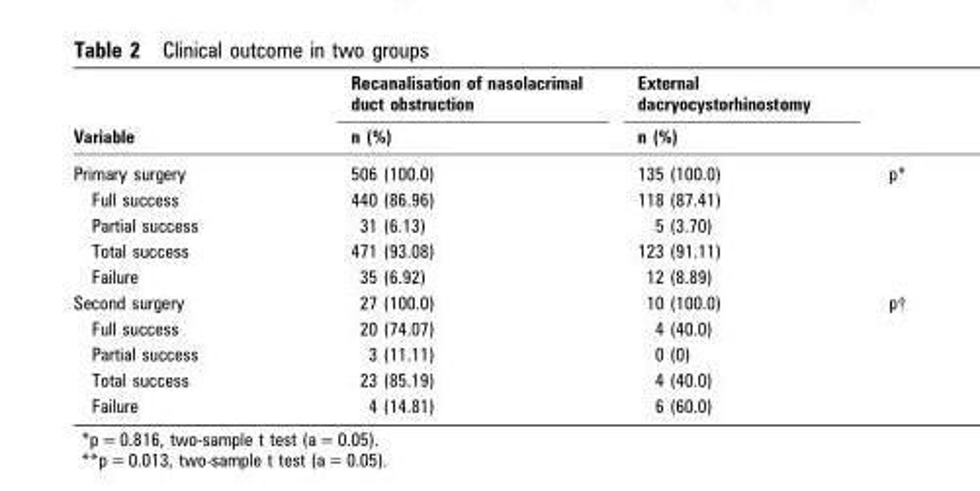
<table><thead><tr><td rowspan="2">Variable</td><td rowspan="2">Recanalisation of nasolacrimal duct obstruction n (%)</td><td rowspan="2">External dacryocystorhinostomy n (%)</td><td rowspan="2"></td></tr><tr></tr></thead><tbody><tr><td>Primary surgery</td><td>506 (100.0)</td><td>135 (100.0)</td><td>p*</td></tr><tr><td>Full success</td><td>440 (86.96)</td><td>118 (87.41)</td><td></td></tr><tr><td>Partial success</td><td>31 (6.13)</td><td>5 (3.70)</td><td></td></tr><tr><td>Total success</td><td>471 (93.08)</td><td>123 (91.11)</td><td></td></tr><tr><td>Failure</td><td>35 (6.92)</td><td>12 (8.89)</td><td></td></tr><tr><td>Second surgery</td><td>27 (100.0)</td><td>10 (100.0)</td><td>p†</td></tr><tr><td>Full success</td><td>20 (74.07)</td><td>4 (40.0)</td><td></td></tr><tr><td>Partial success</td><td>3 (11.11)</td><td>0 (0)</td><td></td></tr><tr><td>Total success</td><td>23 (85.19)</td><td>4 (40.0)</td><td></td></tr><tr><td>Failure</td><td>4 (14.81)</td><td>6 (60.0)</td><td></td></tr></tbody></table>